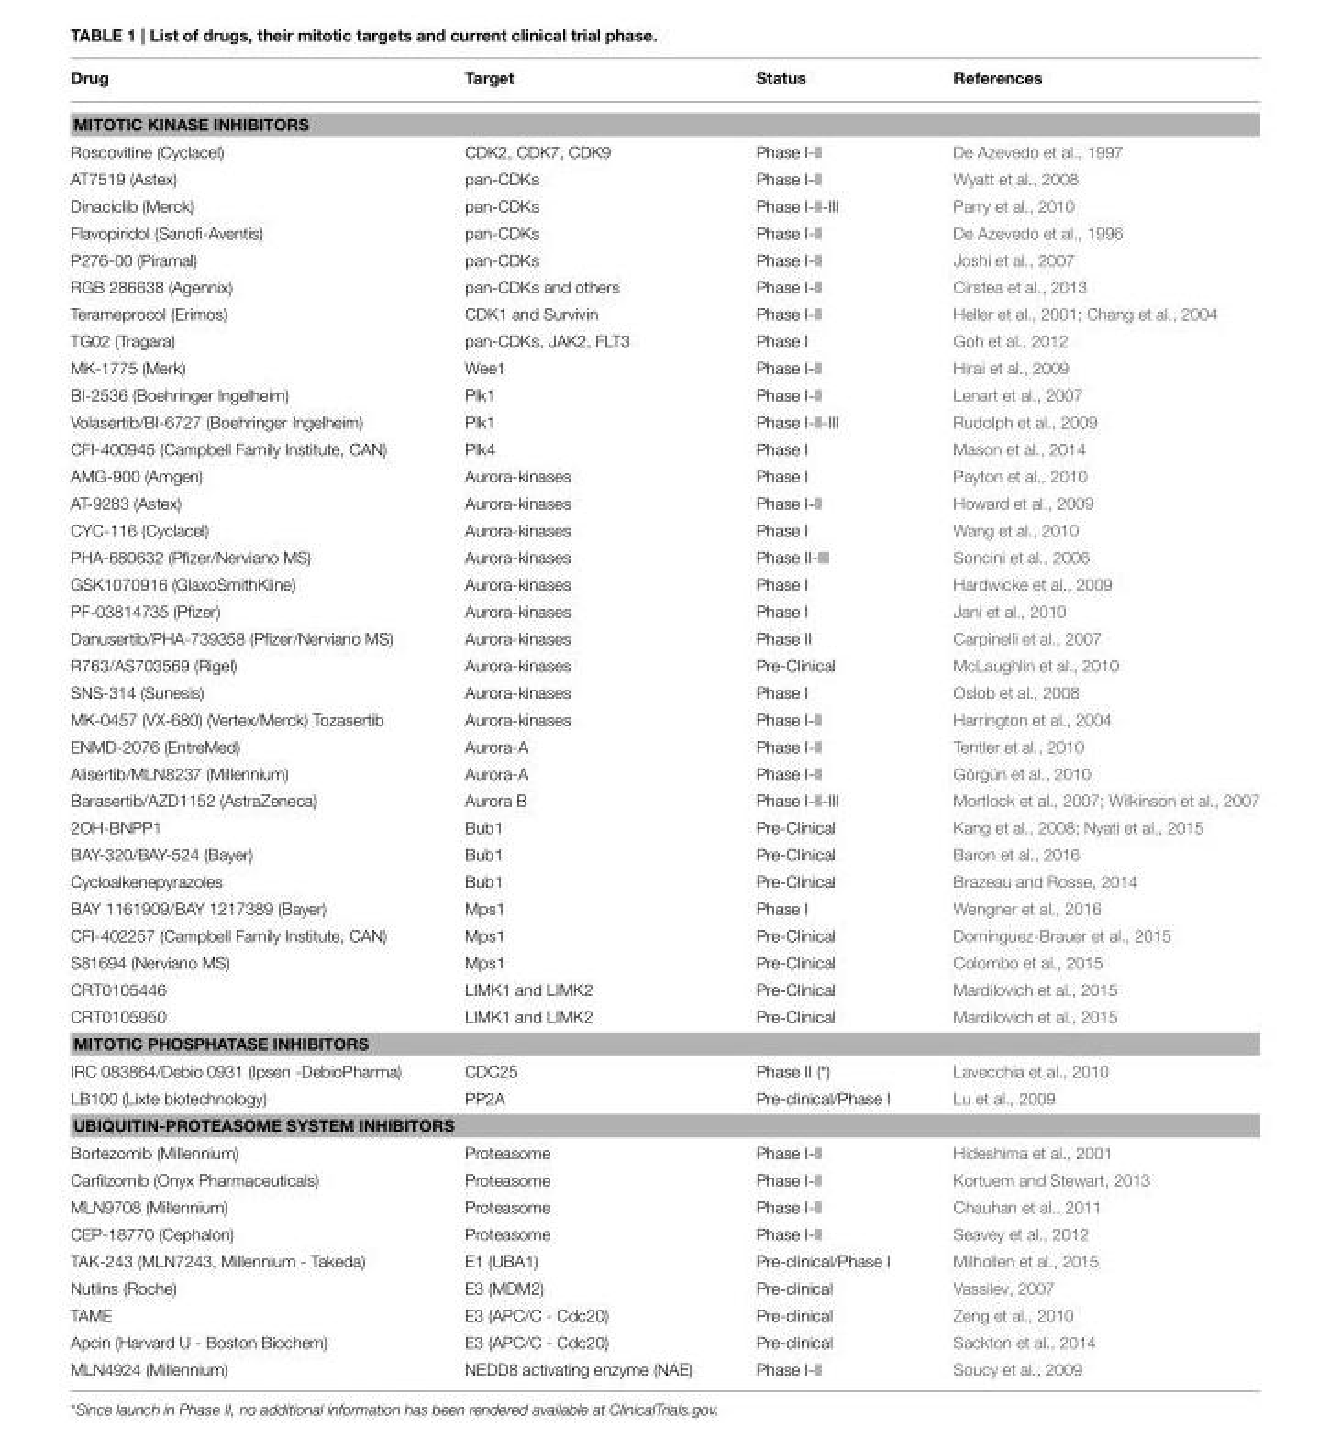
<table><thead><tr><td>Drug</td><td>Target</td><td>Status</td><td>References</td></tr></thead><tbody><tr><td colspan="4">MITOTIC KINASE INHIBITORS</td></tr><tr><td>Roscovitine (Cyclacel)</td><td>CDK2, CDK7, CDK9</td><td>Phase I-II</td><td>De Azevedo et al., 1997</td></tr><tr><td>AT7519 (Astex)</td><td>pan-CDKs</td><td>Phase I-II</td><td>Wyatt et al., 2008</td></tr><tr><td>Dinaciclib (Merck)</td><td>pan-CDKs</td><td>Phase I-II-III</td><td>Parry et al., 2010</td></tr><tr><td>Flavopiridol (Sanofi-Aventis)</td><td>pan-CDKs</td><td>Phase I-II</td><td>De Azevedo et al., 1996</td></tr><tr><td>P276-00 (Piramal)</td><td>pan-CDKs</td><td>Phase I-II</td><td>Joshi et al., 2007</td></tr><tr><td>RGB 286638 (Agennix)</td><td>pan-CDKs and others</td><td>Phase I-II</td><td>Cirstea et al., 2013</td></tr><tr><td>Terameprocol (Erimos)</td><td>CDK1 and Survivin</td><td>Phase I-II</td><td>Heller et al., 2001; Chang et al., 2004</td></tr><tr><td>TG02 (Tragara)</td><td>pan-CDKs, JAK2, FLT3</td><td>Phase I</td><td>Goh et al., 2012</td></tr><tr><td>MK-1775 (Merk)</td><td>Wee1</td><td>Phase I-II</td><td>Hirai et al., 2009</td></tr><tr><td>BI-2536 (Boehringer Ingelheim)</td><td>Plk1</td><td>Phase I-II</td><td>Lenart et al., 2007</td></tr><tr><td>Volasertib/BI-6727 (Boehringer Ingelheim)</td><td>Plk1</td><td>Phase I-II-III</td><td>Rudolph et al., 2009</td></tr><tr><td>CFI-400945 (Campbell Family Institute, CAN)</td><td>Plk4</td><td>Phase I</td><td>Mason et al., 2014</td></tr><tr><td>AMG-900 (Amgen)</td><td>Aurora-kinases</td><td>Phase I</td><td>Payton et al., 2010</td></tr><tr><td>AT-9283 (Astex)</td><td>Aurora-kinases</td><td>Phase I-II</td><td>Howard et al., 2009</td></tr><tr><td>CYC-116 (Cyclacel)</td><td>Aurora-kinases</td><td>Phase I</td><td>Wang et al., 2010</td></tr><tr><td>PHA-680632 (Pfizer/Nerviano MS)</td><td>Aurora-kinases</td><td>Phase II-III</td><td>Soncini et al., 2006</td></tr><tr><td>GSK1070916 (GlaxoSmithKline)</td><td>Aurora-kinases</td><td>Phase I</td><td>Hardwicke et al., 2009</td></tr><tr><td>PF-03814735 (Pfizer)</td><td>Aurora-kinases</td><td>Phase I</td><td>Jani et al., 2010</td></tr><tr><td>Danusertib/PHA-739358 (Pfizer/Nerviano MS)</td><td>Aurora-kinases</td><td>Phase II</td><td>Carpinelli et al., 2007</td></tr><tr><td>R763/AS703569 (Rigel)</td><td>Aurora-kinases</td><td>Pre-Clinical</td><td>McLaughlin et al., 2010</td></tr><tr><td>SNS-314 (Sunesis)</td><td>Aurora-kinases</td><td>Phase I</td><td>Oslob et al., 2008</td></tr><tr><td>MK-0457 (VX-680) (Vertex/Merck) Tozasertib</td><td>Aurora-kinases</td><td>Phase I-II</td><td>Harrington et al., 2004</td></tr><tr><td>ENMD-2076 (EntreMed)</td><td>Aurora-A</td><td>Phase I-II</td><td>Tentler et al., 2010</td></tr><tr><td>Alisertib/MLN8237 (Millennium)</td><td>Aurora-A</td><td>Phase I-II</td><td>Görgün et al., 2010</td></tr><tr><td>Barasertib/AZD1152 (AstraZeneca)</td><td>Aurora B</td><td>Phase I-II-III</td><td>Mortlock et al., 2007; Wilkinson et al., 2007</td></tr><tr><td>2OH-BNPP1</td><td>Bub1</td><td>Pre-Clinical</td><td>Kang et al., 2008; Nyati et al., 2015</td></tr><tr><td>BAY-320/BAY-524 (Bayer)</td><td>Bub1</td><td>Pre-Clinical</td><td>Baron et al., 2016</td></tr><tr><td>Cycloalkenepyrazoles</td><td>Bub1</td><td>Pre-Clinical</td><td>Brazeau and Rosse, 2014</td></tr><tr><td>BAY 1161909/BAY 1217389 (Bayer)</td><td>Mps1</td><td>Phase I</td><td>Wengner et al., 2016</td></tr><tr><td>CFI-402257 (Campbell Family Institute, CAN)</td><td>Mps1</td><td>Pre-Clinical</td><td>Dominguez-Brauer et al., 2015</td></tr><tr><td>S81694 (Nerviano MS)</td><td>Mps1</td><td>Pre-Clinical</td><td>Colombo et al., 2015</td></tr><tr><td>CRT0105446</td><td>LIMK1 and LIMK2</td><td>Pre-Clinical</td><td>Mardilovich et al., 2015</td></tr><tr><td>CRT0105950</td><td>LIMK1 and LIMK2</td><td>Pre-Clinical</td><td>Mardilovich et al., 2015</td></tr><tr><td colspan="4">MITOTIC PHOSPHATASE INHIBITORS</td></tr><tr><td>IRC 083864/Debio 0931 (Ipsen -DebioPharma)</td><td>CDC25</td><td>Phase II (*)</td><td>Lavecchia et al., 2010</td></tr><tr><td>LB100 (Lixte biotechnology)</td><td>PP2A</td><td>Pre-clinical/Phase I</td><td>Lu et al., 2009</td></tr><tr><td colspan="4">UBIQUITIN-PROTEASOME SYSTEM INHIBITORS</td></tr><tr><td>Bortezomib (Millennium)</td><td>Proteasome</td><td>Phase I-II</td><td>Hideshima et al., 2001</td></tr><tr><td>Carfilzomib (Onyx Pharmaceuticals)</td><td>Proteasome</td><td>Phase I-II</td><td>Kortuem and Stewart, 2013</td></tr><tr><td>MLN9708 (Millennium)</td><td>Proteasome</td><td>Phase I-II</td><td>Chauhan et al., 2011</td></tr><tr><td>CEP-18770 (Cephalon)</td><td>Proteasome</td><td>Phase I-II</td><td>Seavey et al., 2012</td></tr><tr><td>TAK-243 (MLN7243, Millennium - Takeda)</td><td>E1 (UBA1)</td><td>Pre-clinical/Phase I</td><td>Milhollen et al., 2015</td></tr><tr><td>Nutlins (Roche)</td><td>E3 (MDM2)</td><td>Pre-clinical</td><td>Vassilev, 2007</td></tr><tr><td>TAME</td><td>E3 (APC/C - Cdc20)</td><td>Pre-clinical</td><td>Zeng et al., 2010</td></tr><tr><td>Apcin (Harvard U - Boston Biochem)</td><td>E3 (APC/C - Cdc20)</td><td>Pre-clinical</td><td>Sackton et al., 2014</td></tr><tr><td>MLN4924 (Millennium)</td><td>NEDD8 activating enzyme (NAE)</td><td>Phase I-II</td><td>Soucy et al., 2009</td></tr></tbody></table>